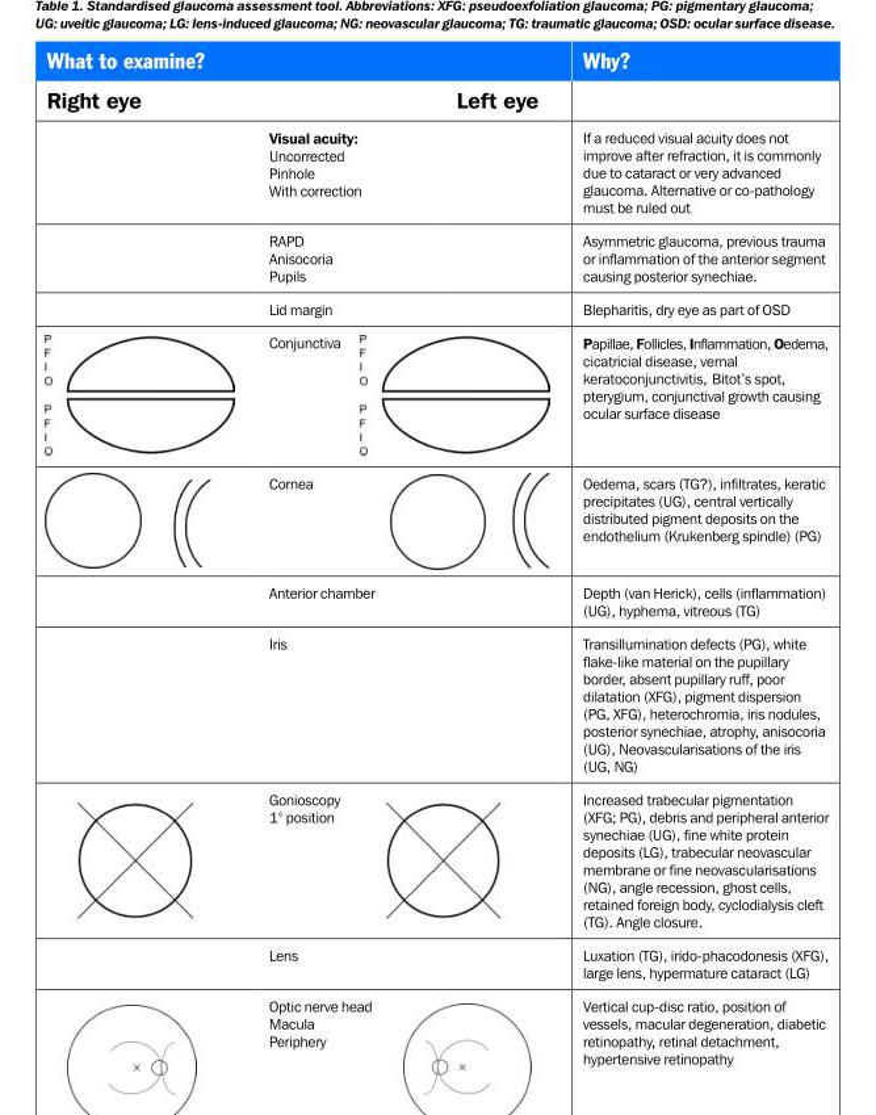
<table><thead><tr><td>What to examine?</td><td></td><td></td><td>Why?</td></tr></thead><tbody><tr><td rowspan="11">right eye</td><td></td><td>left eye</td><td></td></tr><tr><td>Visual acuity: Uncorrected Pinhole With correction</td><td></td><td>If a reduced visual acuity does not improve after refraction, it is commonly due to cataract or very advanced glaucoma. Alternative or co-pathology must be ruled out</td></tr><tr><td>RAPD Anisocoria Pupils</td><td></td><td>Asymmetric glaucoma, previous trauma or inflammation of the anterior segment causing posterior synechiae.</td></tr><tr><td>Lid margin</td><td></td><td>Blepharitis, dry eye as part of OSD</td></tr><tr><td>Conjunctiva</td><td></td><td>Papillae, Follicles, inflammation, oedema, cicatricial disease, vernal keratoconjunctivitis, Bitot’s spot, pterygium, conjunctival growth causing ocular surface disease</td></tr><tr><td>Cornea</td><td></td><td>Oedema, scars (TG?), infiltrates, keratic precipitates (UG), central vertically distributed pigment deposits on the endothelium (Krukenberg spindle) (PG)</td></tr><tr><td>Anterior chamber</td><td></td><td>Depth (van Herick), cells (inflammation) (UG), hyphema, vitreous (TG)</td></tr><tr><td>Iris</td><td></td><td>Transillumination defects (PG), white flake-like material on the pupillary border, absent pupillary ruff, poor dilatation (XFG), pigment dispersion (PG, XFG), heterochromia, iris nodules, posterior synechiae, atrophy, anisocoria (UG), Neovascularisations of the iris (UG, NG)</td></tr><tr><td>Gonioscopy 1° position</td><td></td><td>Increased trabecular pigmentation (XFG; PG), debris and peripheral anterior synechiae (UG), fine white protein deposits (LG), trabecular neovascular membrane or fine neovascularisations (NG), angle recession, ghost cells, retained foreign body, cyclodialysis cleft (TG). Angle closure.</td></tr><tr><td>Lens</td><td></td><td>Luxation (TG), irido-phacodonesis (XFG), large lens, hypermature cataract (LG)</td></tr><tr><td>Optic nerve head Macula Periphery</td><td></td><td>Vertical cup-disc ratio, position of vessels, macular degeneration, diabetic retinopathy, retinal detachment, hypertensive retinopathy</td></tr></tbody></table>